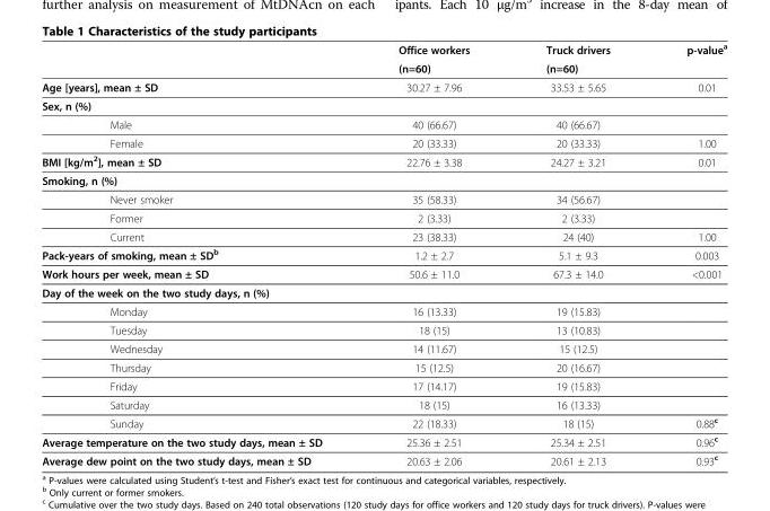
<table><thead><tr><td rowspan="2"></td><td rowspan="2">Office workers (n=60)</td><td rowspan="2">Truck drivers (n=60)</td><td rowspan="2">p-value<sup>a</sup></td></tr><tr></tr></thead><tbody><tr><td>Age [years], mean ± SD</td><td>30.27 ± 7.96</td><td>33.53 ± 5.65</td><td>0.01</td></tr><tr><td colspan="4">Sex, n (%)</td></tr><tr><td>Male</td><td>40 (66.67)</td><td>40 (66.67)</td><td></td></tr><tr><td>Female</td><td>20 (33.33)</td><td>20 (33.33)</td><td>1.00</td></tr><tr><td>BMI [kg/m<sup>2</sup>], mean ± SD</td><td>22.76 ± 3.38</td><td>24.27 ± 3.21</td><td>0.01</td></tr><tr><td colspan="4">Smoking, n (%)</td></tr><tr><td>Never smoker</td><td>35 (58.33)</td><td>34 (56.67)</td><td></td></tr><tr><td>Former</td><td>2 (3.33)</td><td>2 (3.33)</td><td></td></tr><tr><td>Current</td><td>23 (38.33)</td><td>24 (40)</td><td>1.00</td></tr><tr><td>Pack-years of smoking, mean ± SD<sup>b</sup></td><td>1.2 ± 2.7</td><td>5.1 ± 9.3</td><td>0.003</td></tr><tr><td>Work hours per week, mean ± SD</td><td>50.6 ± 11.0</td><td>67.3 ± 14.0</td><td>&lt;0.001</td></tr><tr><td colspan="4">Day of the week on the two study days, n (%)</td></tr><tr><td>Monday</td><td>16 (13.33)</td><td>19 (15.83)</td><td></td></tr><tr><td>Tuesday</td><td>18 (15)</td><td>13 (10.83)</td><td></td></tr><tr><td>Wednesday</td><td>14 (11.67)</td><td>15 (12.5)</td><td></td></tr><tr><td>Thursday</td><td>15 (12.5)</td><td>20 (16.67)</td><td></td></tr><tr><td>Friday</td><td>17 (14.17)</td><td>19 (15.83)</td><td></td></tr><tr><td>Saturday</td><td>18 (15)</td><td>16 (13.33)</td><td></td></tr><tr><td>Sunday</td><td>22 (18.33)</td><td>18 (15)</td><td>0.88<sup>c</sup></td></tr><tr><td>Average temperature on the two study days, mean ± SD</td><td>25.36 ± 2.51</td><td>25.34 ± 2.51</td><td>0.96<sup>c</sup></td></tr><tr><td>Average dew point on the two study days, mean ± SD</td><td>20.63 ± 2.06</td><td>20.61 ± 2.13</td><td>0.93<sup>c</sup></td></tr></tbody></table>